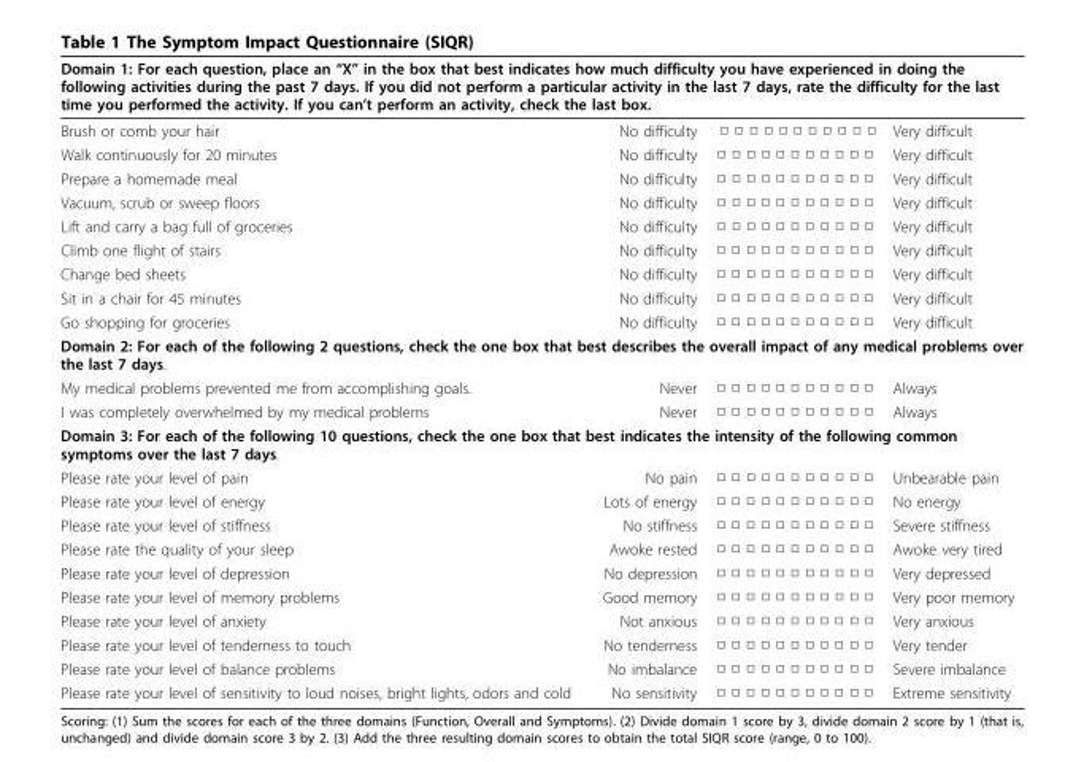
<table><thead><tr><td colspan="4">Domain 1: For each question, place an “X” in the box that best indicates how much difficulty you have experienced in doing the following activities during the past 7 days. If you did not perform a particular activity in the last 7 days, rate the difficulty for the last time you performed the activity. If you can’t perform an activity, check the last box.</td></tr><tr><td>Brush or comb your hair</td><td>No difficulty</td><td>□ □ □ □ □ □ □ □ □ □ □</td><td>Very difficult</td></tr></thead><tbody><tr><td>Walk continuously for 20 minutes</td><td>No difficulty</td><td>□ □ □ □ □ □ □ □ □ □ □</td><td>Very difficult</td></tr><tr><td>Prepare a homemade meal</td><td>No difficulty</td><td>□ □ □ □ □ □ □ □ □ □ □</td><td>Very difficult</td></tr><tr><td>Vacuum, scrub or sweep floors</td><td>No difficulty</td><td>□ □ □ □ □ □ □ □ □ □ □</td><td>Very difficult</td></tr><tr><td>Lift and carry a bag full of groceries</td><td>No difficulty</td><td>□ □ □ □ □ □ □ □ □ □ □</td><td>Very difficult</td></tr><tr><td>Climb one flight of stairs</td><td>No difficulty</td><td>□ □ □ □ □ □ □ □ □ □ □</td><td>Very difficult</td></tr><tr><td>Change bed sheets</td><td>No difficulty</td><td>□ □ □ □ □ □ □ □ □ □ □</td><td>Very difficult</td></tr><tr><td>Sit in a chair for 45 minutes</td><td>No difficulty</td><td>□ □ □ □ □ □ □ □ □ □ □</td><td>Very difficult</td></tr><tr><td>Go shopping for groceries</td><td>No difficulty</td><td>□ □ □ □ □ □ □ □ □ □ □</td><td>Very difficult</td></tr><tr><td colspan="4">Domain 2: For each of the following 2 questions, check the one box that best describes the overall impact of any medical problems over the last 7 days.</td></tr><tr><td>My medical problems prevented me from accomplishing goals.</td><td>Never</td><td>□ □ □ □ □ □ □ □ □ □ □</td><td>Always</td></tr><tr><td>I was completely overwhelmed by my medical problems</td><td>Never</td><td>□ □ □ □ □ □ □ □ □ □ □</td><td>Always</td></tr><tr><td colspan="4">Domain 3: For each of the following 10 questions, check the one box that best indicates the intensity of the following common symptoms over the last 7 days.</td></tr><tr><td>Please rate your level of pain</td><td>No pain</td><td>□ □ □ □ □ □ □ □ □ □ □</td><td>Unbearable pain</td></tr><tr><td>Please rate your level of energy</td><td>Lots of energy</td><td>□ □ □ □ □ □ □ □ □ □ □</td><td>No energy</td></tr><tr><td>Please rate your level of stiffness</td><td>No stiffness</td><td>□ □ □ □ □ □ □ □ □ □ □</td><td>Severe stiffness</td></tr><tr><td>Please rate the quality of your sleep</td><td>Awoke rested</td><td>□ □ □ □ □ □ □ □ □ □ □</td><td>Awoke very tired</td></tr><tr><td>Please rate your level of depression</td><td>No depression</td><td>□ □ □ □ □ □ □ □ □ □ □</td><td>Very depressed</td></tr><tr><td>Please rate your level of memory problems</td><td>Good memory</td><td>□ □ □ □ □ □ □ □ □ □ □</td><td>Very poor memory</td></tr><tr><td>Please rate your level of anxiety</td><td>Not anxious</td><td>□ □ □ □ □ □ □ □ □ □ □</td><td>Very anxious</td></tr><tr><td>Please rate your level of tenderness to touch</td><td>No tenderness</td><td>□ □ □ □ □ □ □ □ □ □ □</td><td>Very tender</td></tr><tr><td>Please rate your level of balance problems</td><td>No imbalance</td><td>□ □ □ □ □ □ □ □ □ □ □</td><td>Severe imbalance</td></tr><tr><td>Please rate your level of sensitivity to loud noises, bright lights, odors and cold</td><td>No sensitivity</td><td>□ □ □ □ □ □ □ □ □ □ □</td><td>Extreme sensitivity</td></tr></tbody></table>